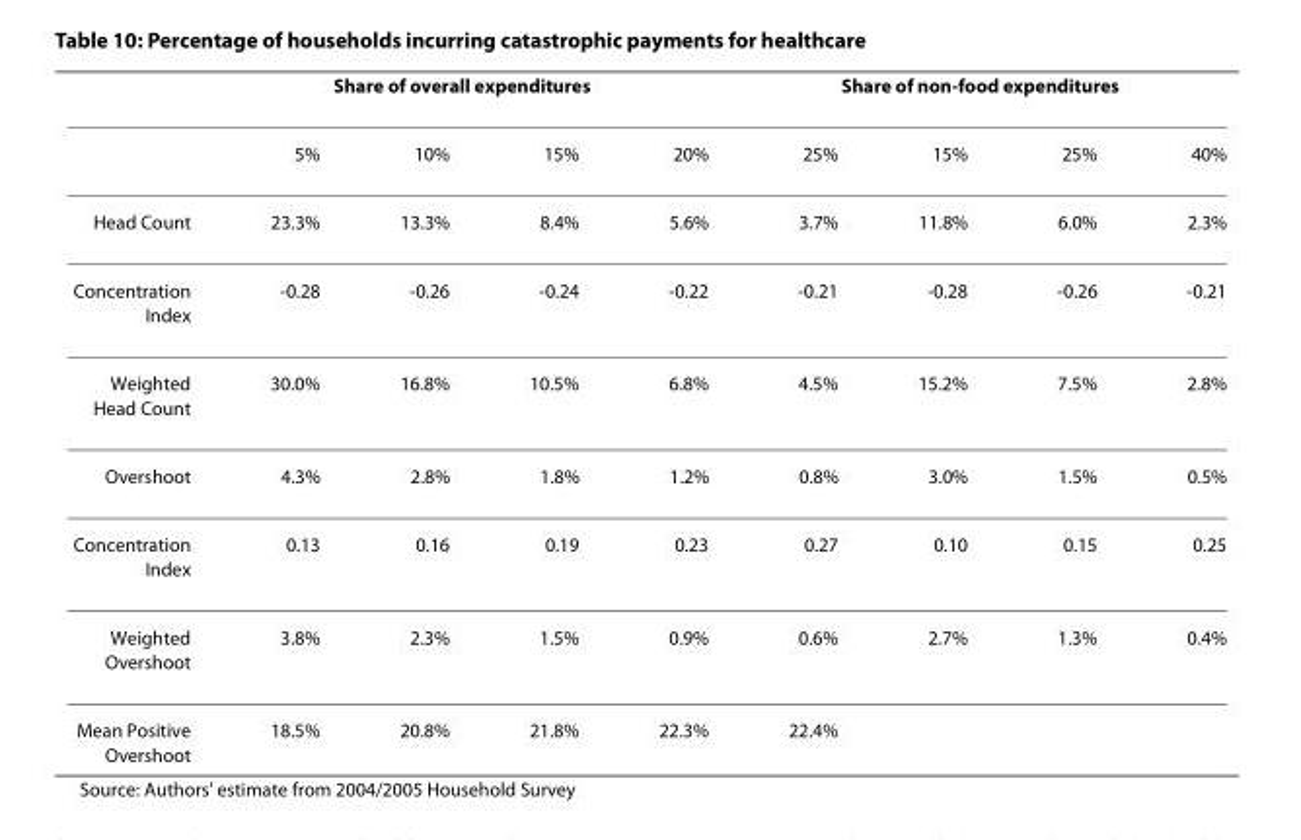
<table><thead><tr><td rowspan="2"></td><td colspan="4">Share of overall expenditures</td><td colspan="4">Share of non-food expenditures</td></tr><tr><td>5%</td><td>10%</td><td>15%</td><td>20%</td><td>25%</td><td>15%</td><td>25%</td><td>40%</td></tr></thead><tbody><tr><td>Head Count</td><td>23.3%</td><td>13.3%</td><td>8.4%</td><td>5.6%</td><td>3.7%</td><td>11.8%</td><td>6.0%</td><td>2.3%</td></tr><tr><td>Concentration Index</td><td>-0.28</td><td>-0.26</td><td>-0.24</td><td>-0.22</td><td>-0.21</td><td>-0.28</td><td>-0.26</td><td>-0.21</td></tr><tr><td>Weighted Head Count</td><td>30.0%</td><td>16.8%</td><td>10.5%</td><td>6.8%</td><td>4.5%</td><td>15.2%</td><td>7.5%</td><td>2.8%</td></tr><tr><td>Overshoot</td><td>4.3%</td><td>2.8%</td><td>1.8%</td><td>1.2%</td><td>0.8%</td><td>3.0%</td><td>1.5%</td><td>0.5%</td></tr><tr><td>Concentration Index</td><td>0.13</td><td>0.16</td><td>0.19</td><td>0.23</td><td>0.27</td><td>0.10</td><td>0.15</td><td>0.25</td></tr><tr><td>Weighted Overshoot</td><td>3.8%</td><td>2.3%</td><td>1.5%</td><td>0.9%</td><td>0.6%</td><td>2.7%</td><td>1.3%</td><td>0.4%</td></tr><tr><td>Mean Positive Overshoot</td><td>18.5%</td><td>20.8%</td><td>21.8%</td><td>22.3%</td><td>22.4%</td><td></td><td></td><td></td></tr></tbody></table>